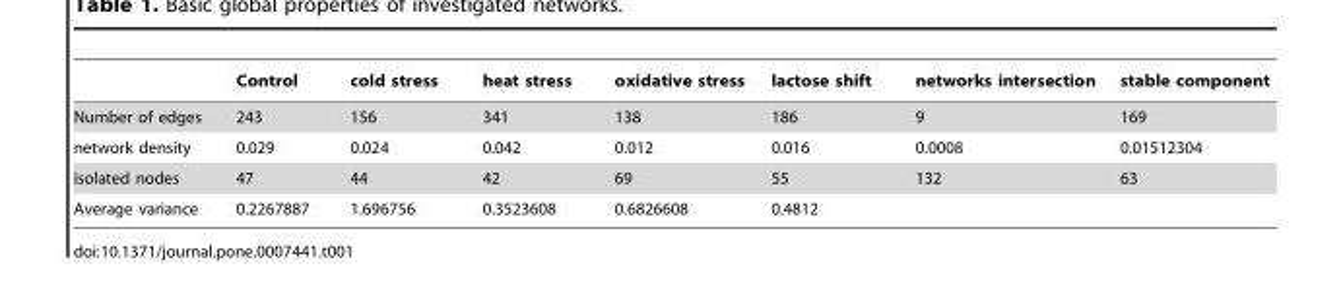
<table><thead><tr><td></td><td>Control</td><td>cold stress</td><td>heat stress</td><td>oxidative stress</td><td>lactose shift</td><td>networks intersection</td><td>stable component</td></tr></thead><tbody><tr><td>Number of edges</td><td>243</td><td>156</td><td>341</td><td>138</td><td>186</td><td>9</td><td>169</td></tr><tr><td>network density</td><td>0.029</td><td>0.024</td><td>0.042</td><td>0.012</td><td>0.016</td><td>0.0008</td><td>0.01512304</td></tr><tr><td>isolated nodes</td><td>47</td><td>44</td><td>42</td><td>69</td><td>55</td><td>132</td><td>63</td></tr><tr><td>Average variance</td><td>0.2267887</td><td>1.696756</td><td>0.3523608</td><td>0.6826608</td><td>0.4812</td><td></td><td></td></tr></tbody></table>